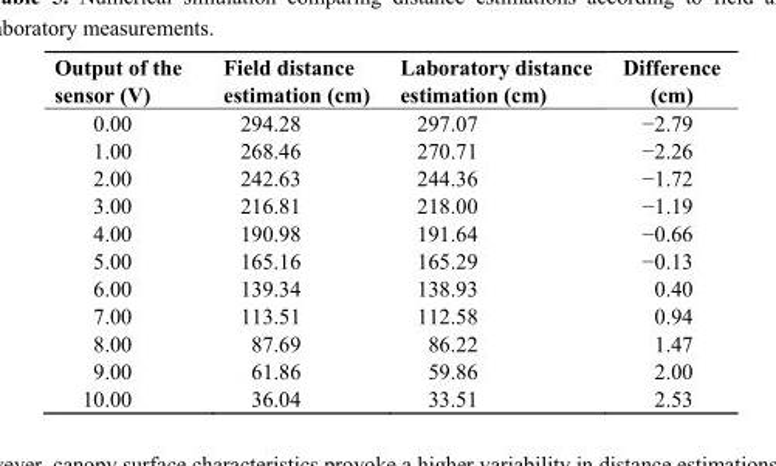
<table><thead><tr><td>Output of the sensor (V)</td><td>Field distance estimation (cm)</td><td>Laboratory distance estimation (cm)</td><td>Difference (cm)</td></tr></thead><tbody><tr><td>0.00</td><td>294.28</td><td>297.07</td><td>−2.79</td></tr><tr><td>1.00</td><td>268.46</td><td>270.71</td><td>−2.26</td></tr><tr><td>2.00</td><td>242.63</td><td>244.36</td><td>−1.72</td></tr><tr><td>3.00</td><td>216.81</td><td>218.00</td><td>−1.19</td></tr><tr><td>4.00</td><td>190.98</td><td>191.64</td><td>−0.66</td></tr><tr><td>5.00</td><td>165.16</td><td>165.29</td><td>−0.13</td></tr><tr><td>6.00</td><td>139.34</td><td>138.93</td><td>0.40</td></tr><tr><td>7.00</td><td>113.51</td><td>112.58</td><td>0.94</td></tr><tr><td>8.00</td><td>87.69</td><td>86.22</td><td>1.47</td></tr><tr><td>9.00</td><td>61.86</td><td>59.86</td><td>2.00</td></tr><tr><td>10.00</td><td>36.04</td><td>33.51</td><td>2.53</td></tr></tbody></table>